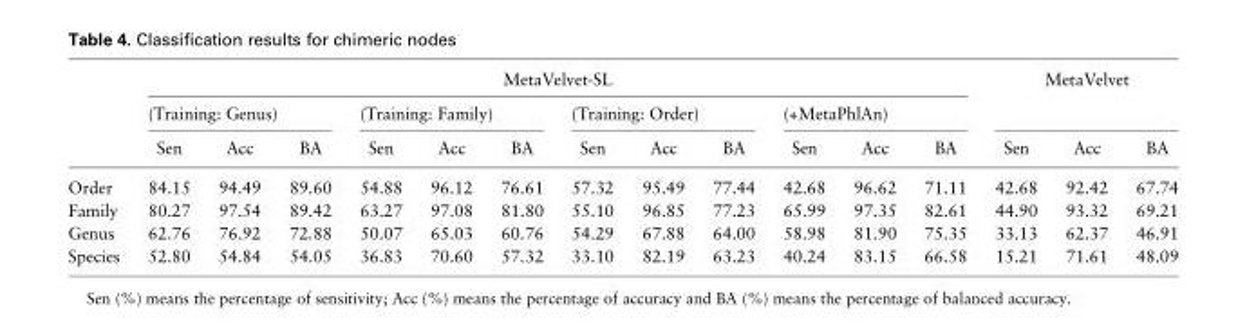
<table><thead><tr><td rowspan="3"></td><td colspan="12">MetaVelvet-SL</td><td colspan="3">MetaVelvet</td></tr><tr><td colspan="3">(Training: Genus)</td><td colspan="3">(Training: Family)</td><td colspan="3">(Training: Order)</td><td colspan="3">(+MetaPhlAn)</td><td rowspan="2">Sen</td><td rowspan="2">Acc</td><td rowspan="2">BA</td></tr><tr><td>Sen</td><td>Acc</td><td>BA</td><td>Sen</td><td>Acc</td><td>BA</td><td>Sen</td><td>Acc</td><td>BA</td><td>Sen</td><td>Acc</td><td>BA</td></tr></thead><tbody><tr><td>Order</td><td>84.15</td><td>94.49</td><td>89.60</td><td>54.88</td><td>96.12</td><td>76.61</td><td>57.32</td><td>95.49</td><td>77.44</td><td>42.68</td><td>96.62</td><td>71.11</td><td>42.68</td><td>92.42</td><td>67.74</td></tr><tr><td>Family</td><td>80.27</td><td>97.54</td><td>89.42</td><td>63.27</td><td>97.08</td><td>81.80</td><td>55.10</td><td>96.85</td><td>77.23</td><td>65.99</td><td>97.35</td><td>82.61</td><td>44.90</td><td>93.32</td><td>69.21</td></tr><tr><td>Genus</td><td>62.76</td><td>76.92</td><td>72.88</td><td>50.07</td><td>65.03</td><td>60.76</td><td>54.29</td><td>67.88</td><td>64.00</td><td>58.98</td><td>81.90</td><td>75.35</td><td>33.13</td><td>62.37</td><td>46.91</td></tr><tr><td>Species</td><td>52.80</td><td>54.84</td><td>54.05</td><td>36.83</td><td>70.60</td><td>57.32</td><td>33.10</td><td>82.19</td><td>63.23</td><td>40.24</td><td>83.15</td><td>66.58</td><td>15.21</td><td>71.61</td><td>48.09</td></tr></tbody></table>